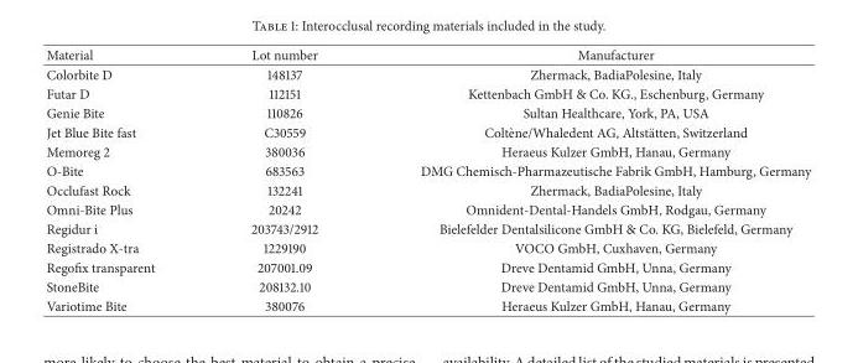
<table><thead><tr><td>Material</td><td>Lot number</td><td>Manufacturer</td></tr></thead><tbody><tr><td>Colorbite D</td><td>148137</td><td>Zhermack, BadiaPolesine, Italy</td></tr><tr><td>Futar D</td><td>112151</td><td>Kettenbach GmbH &amp; Co. KG., Eschenburg, Germany</td></tr><tr><td>Genie Bite</td><td>110826</td><td>Sultan Healthcare, York, PA, USA</td></tr><tr><td>Jet Blue Bite fast</td><td>C30559</td><td>Colt`ene/Whaledent AG, Altst¨atten, Switzerland</td></tr><tr><td>Memoreg 2</td><td>380036</td><td>Heraeus Kulzer GmbH, Hanau, Germany</td></tr><tr><td>O-Bite</td><td>683563</td><td>DMG Chemisch-Pharmazeutische Fabrik GmbH, Hamburg, Germany</td></tr><tr><td>Occlufast Rock</td><td>132241</td><td>Zhermack, BadiaPolesine, Italy</td></tr><tr><td>Omni-Bite Plus</td><td>20242</td><td>Omnident-Dental-Handels GmbH, Rodgau, Germany</td></tr><tr><td>Regidur i</td><td>203743/2912</td><td>Bielefelder Dentalsilicone GmbH &amp; Co. KG, Bielefeld, Germany</td></tr><tr><td>Registrado X-tra</td><td>1229190</td><td>VOCO GmbH, Cuxhaven, Germany</td></tr><tr><td>Regofix transparent</td><td>207001.09</td><td>Dreve Dentamid GmbH, Unna, Germany</td></tr><tr><td>StoneBite</td><td>208132.10</td><td>Dreve Dentamid GmbH, Unna, Germany</td></tr><tr><td>Variotime Bite</td><td>380076</td><td>Heraeus Kulzer GmbH, Hanau, Germany</td></tr></tbody></table>